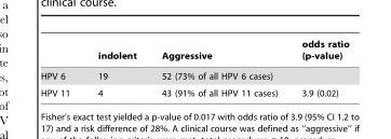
<table><thead><tr><td></td><td>indolent</td><td>Aggressive</td><td>odds ratio (p-value)</td></tr></thead><tbody><tr><td>HPV 6</td><td>19</td><td>52 (73% of all HPV 6 cases)</td><td></td></tr><tr><td>HPV 11</td><td>4</td><td>43 (91% of all HPV 11 cases)</td><td>3.9 (0.02)</td></tr></tbody></table>